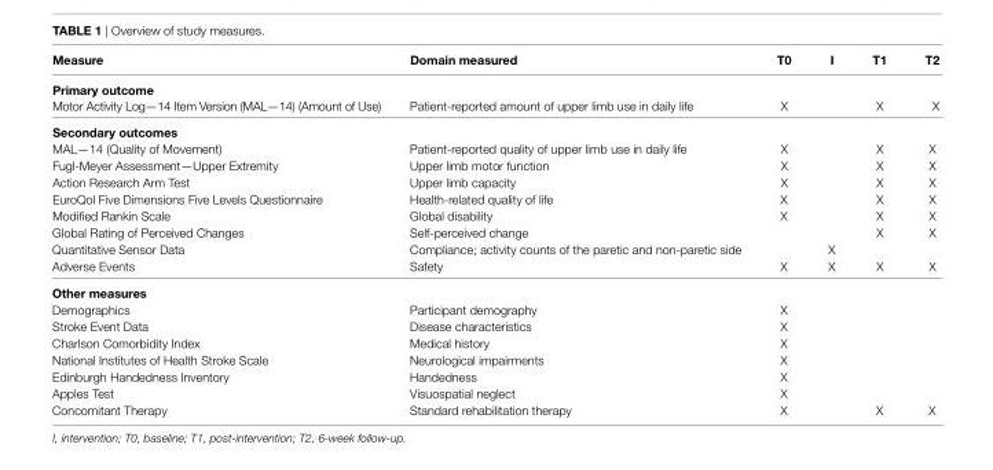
<table><thead><tr><td>Measure</td><td>domain measured</td><td>t0</td><td>i</td><td>t1</td><td>t2</td></tr></thead><tbody><tr><td colspan="6">Primary outcome</td></tr><tr><td>Motor Activity Log—14 Item Version (MAL—14) (Amount of Use)</td><td>Patient-reported amount of upper limb use in daily life</td><td>X</td><td></td><td>X</td><td>X</td></tr><tr><td colspan="6">Secondary outcomes</td></tr><tr><td>MAL—14 (Quality of Movement)</td><td>Patient-reported quality of upper limb use in daily life</td><td>X</td><td></td><td>X</td><td>X</td></tr><tr><td>Fugl-Meyer Assessment—Upper Extremity</td><td>Upper limb motor function</td><td>X</td><td></td><td>X</td><td>X</td></tr><tr><td>Action Research Arm Test</td><td>Upper limb capacity</td><td>X</td><td></td><td>X</td><td>X</td></tr><tr><td>EuroQol Five Dimensions Five Levels Questionnaire</td><td>Health-related quality of life</td><td>X</td><td></td><td>X</td><td>X</td></tr><tr><td>Modified Rankin Scale</td><td>Global disability</td><td>X</td><td></td><td>X</td><td>X</td></tr><tr><td>Global Rating of Perceived Changes</td><td>Self-perceived change</td><td></td><td></td><td>X</td><td>X</td></tr><tr><td>Quantitative Sensor Data</td><td>Compliance; activity counts of the paretic and non-paretic side</td><td></td><td>X</td><td></td><td></td></tr><tr><td>Adverse Events</td><td>Safety</td><td>X</td><td>X</td><td>X</td><td>X</td></tr><tr><td colspan="6">other measures</td></tr><tr><td>Demographics</td><td>Participant demography</td><td>X</td><td></td><td></td><td></td></tr><tr><td>Stroke Event Data</td><td>Disease characteristics</td><td>X</td><td></td><td></td><td></td></tr><tr><td>Charlson Comorbidity Index</td><td>Medical history</td><td>X</td><td></td><td></td><td></td></tr><tr><td>National Institutes of Health Stroke Scale</td><td>Neurological impairments</td><td>X</td><td></td><td></td><td></td></tr><tr><td>Edinburgh Handedness Inventory</td><td>Handedness</td><td>X</td><td></td><td></td><td></td></tr><tr><td>Apples Test</td><td>Visuospatial neglect</td><td>X</td><td></td><td></td><td></td></tr><tr><td>Concomitant Therapy</td><td>Standard rehabilitation therapy</td><td>X</td><td></td><td>X</td><td>X</td></tr></tbody></table>